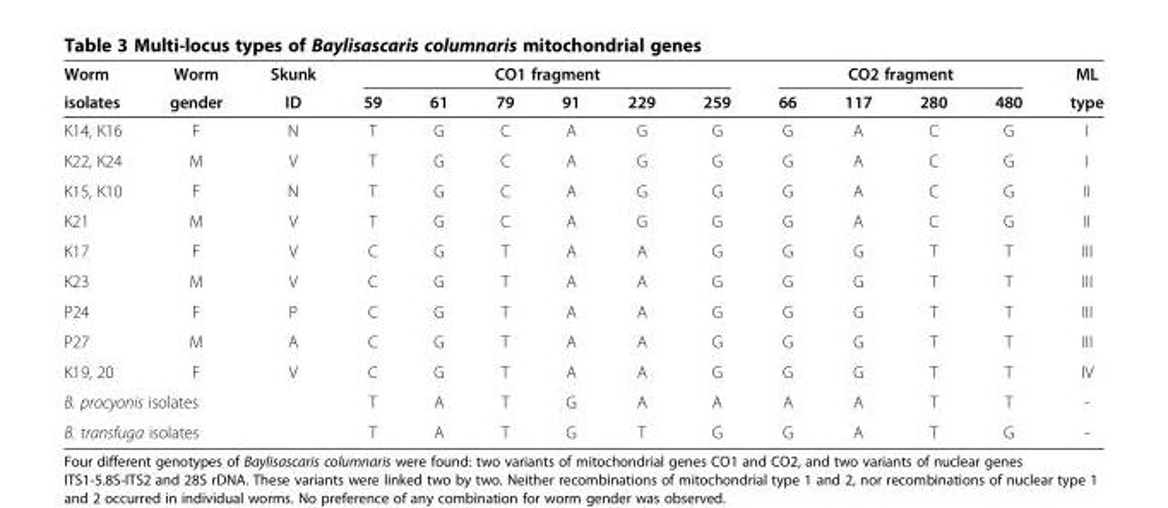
<table><thead><tr><td rowspan="2">Worm isolates</td><td rowspan="2">Worm gender</td><td rowspan="2">Skunk ID</td><td colspan="6">CO1 fragment</td><td colspan="4">CO2 fragment</td><td rowspan="2">ML type</td></tr><tr><td>59</td><td>61</td><td>79</td><td>91</td><td>229</td><td>259</td><td>66</td><td>117</td><td>280</td><td>480</td></tr></thead><tbody><tr><td>K14, K16</td><td>F</td><td>N</td><td>T</td><td>G</td><td>C</td><td>A</td><td>G</td><td>G</td><td>G</td><td>A</td><td>C</td><td>G</td><td>I</td></tr><tr><td>K22, K24</td><td>M</td><td>V</td><td>T</td><td>G</td><td>C</td><td>A</td><td>G</td><td>G</td><td>G</td><td>A</td><td>C</td><td>G</td><td>I</td></tr><tr><td>K15, K10</td><td>F</td><td>N</td><td>T</td><td>G</td><td>C</td><td>A</td><td>G</td><td>G</td><td>G</td><td>A</td><td>C</td><td>G</td><td>II</td></tr><tr><td>K21</td><td>M</td><td>V</td><td>T</td><td>G</td><td>C</td><td>A</td><td>G</td><td>G</td><td>G</td><td>A</td><td>C</td><td>G</td><td>II</td></tr><tr><td>K17</td><td>F</td><td>V</td><td>C</td><td>G</td><td>T</td><td>A</td><td>A</td><td>G</td><td>G</td><td>G</td><td>T</td><td>T</td><td>III</td></tr><tr><td>K23</td><td>M</td><td>V</td><td>C</td><td>G</td><td>T</td><td>A</td><td>A</td><td>G</td><td>G</td><td>G</td><td>T</td><td>T</td><td>III</td></tr><tr><td>P24</td><td>F</td><td>P</td><td>C</td><td>G</td><td>T</td><td>A</td><td>A</td><td>G</td><td>G</td><td>G</td><td>T</td><td>T</td><td>III</td></tr><tr><td>P27</td><td>M</td><td>A</td><td>C</td><td>G</td><td>T</td><td>A</td><td>A</td><td>G</td><td>G</td><td>G</td><td>T</td><td>T</td><td>III</td></tr><tr><td>K19, 20</td><td>F</td><td>V</td><td>C</td><td>G</td><td>T</td><td>A</td><td>A</td><td>G</td><td>G</td><td>G</td><td>T</td><td>T</td><td>IV</td></tr><tr><td colspan="3">B. procyonis isolates</td><td>T</td><td>A</td><td>T</td><td>G</td><td>A</td><td>A</td><td>A</td><td>A</td><td>T</td><td>T</td><td>-</td></tr><tr><td colspan="3">B. transfuga isolates</td><td>T</td><td>A</td><td>T</td><td>G</td><td>T</td><td>G</td><td>G</td><td>A</td><td>T</td><td>G</td><td>-</td></tr></tbody></table>